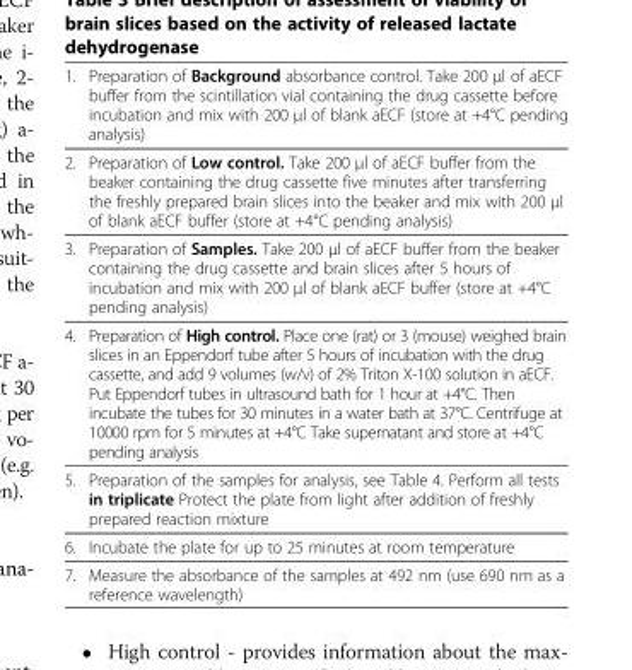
<table><thead><tr><td>1.</td><td>Preparation of Background absorbance control. Take 200 μl of aECF buffer from the scintillation vial containing the drug cassette before incubation and mix with 200 μl of blank aECF (store at +4°C pending analysis)</td></tr></thead><tbody><tr><td>2.</td><td>Preparation of Low control. Take 200 μl of aECF buffer from the beaker containing the drug cassette five minutes after transferring the freshly prepared brain slices into the beaker and mix with 200 μl of blank aECF buffer (store at +4°C pending analysis)</td></tr><tr><td>3.</td><td>Preparation of Samples. Take 200 μl of aECF buffer from the beaker containing the drug cassette and brain slices after 5 hours of incubation and mix with 200 μl of blank aECF buffer (store at +4°C pending analysis)</td></tr><tr><td>4.</td><td>Preparation of High control. Place one (rat) or 3 (mouse) weighed brain slices in an Eppendorf tube after 5 hours of incubation with the drug cassette, and add 9 volumes (w/v) of 2% Triton X-100 solution in aECF. Put Eppendorf tubes in ultrasound bath for 1 hour at +4°C. Then incubate the tubes for 30 minutes in a water bath at 37°C. Centrifuge at 10000 rpm for 5 minutes at +4°C Take supernatant and store at +4°C pending analysis</td></tr><tr><td>5.</td><td>Preparation of the samples for analysis, see Table 4. Perform all tests in triplicate Protect the plate from light after addition of freshly prepared reaction mixture</td></tr><tr><td>6.</td><td>Incubate the plate for up to 25 minutes at room temperature</td></tr><tr><td>7.</td><td>Measure the absorbance of the samples at 492 nm (use 690 nm as a reference wavelength)</td></tr></tbody></table>